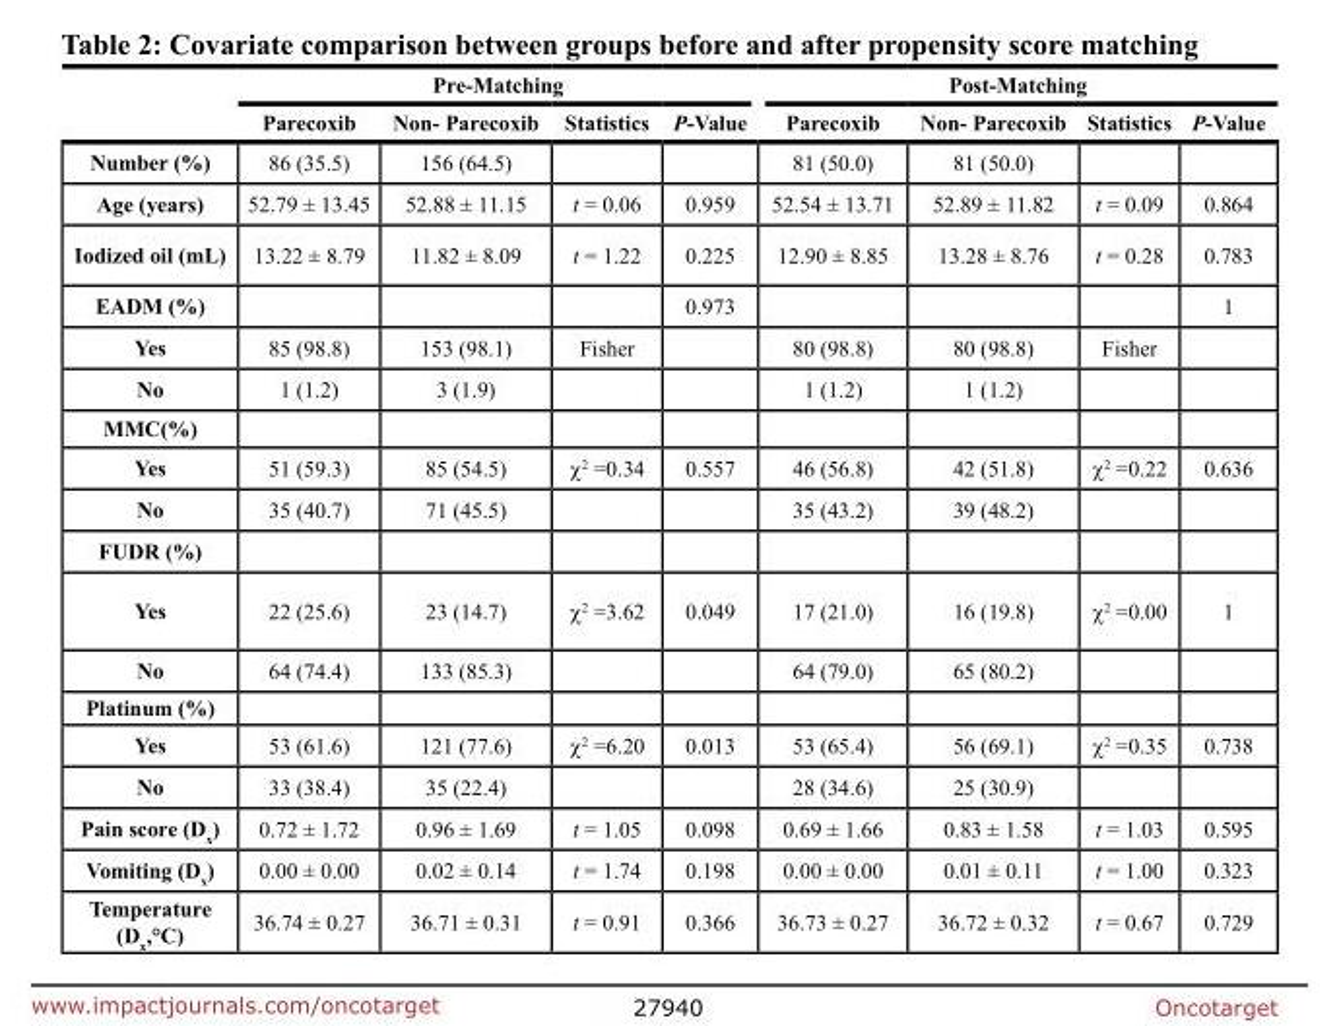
<table><thead><tr><td rowspan="2"></td><td colspan="4">Pre-Matching</td><td colspan="4">Post-Matching</td></tr><tr><td>Parecoxib</td><td>Non- Parecoxib</td><td>Statistics</td><td>P-Value</td><td>Parecoxib</td><td>Non- Parecoxib</td><td>Statistics</td><td>P-Value</td></tr></thead><tbody><tr><td>Number (%)</td><td>86 (35.5)</td><td>156 (64.5)</td><td></td><td></td><td>81 (50.0)</td><td>81 (50.0)</td><td></td><td></td></tr><tr><td>Age (years)</td><td>52.79 ± 13.45</td><td>52.88 ± 11.15</td><td>t = 0.06</td><td>0.959</td><td>52.54 ± 13.71</td><td>52.89 ± 11.82</td><td>t = 0.09</td><td>0.864</td></tr><tr><td>Iodized oil (mL)</td><td>13.22 ± 8.79</td><td>11.82 ± 8.09</td><td>t = 1.22</td><td>0.225</td><td>12.90 ± 8.85</td><td>13.28 ± 8.76</td><td>t = 0.28</td><td>0.783</td></tr><tr><td>EADM (%)</td><td></td><td></td><td></td><td>0.973</td><td></td><td></td><td></td><td>1</td></tr><tr><td>Yes</td><td>85 (98.8)</td><td>153 (98.1)</td><td>Fisher</td><td></td><td>80 (98.8)</td><td>80 (98.8)</td><td>Fisher</td><td></td></tr><tr><td>No</td><td>1 (1.2)</td><td>3 (1.9)</td><td></td><td></td><td>1 (1.2)</td><td>1 (1.2)</td><td></td><td></td></tr><tr><td colspan="9">MMC(%)</td></tr><tr><td>Yes</td><td>51 (59.3)</td><td>85 (54.5)</td><td>χ<sup>2</sup> =0.34</td><td>0.557</td><td>46 (56.8)</td><td>42 (51.8)</td><td>χ<sup>2</sup> =0.22</td><td>0.636</td></tr><tr><td>No</td><td>35 (40.7)</td><td>71 (45.5)</td><td></td><td></td><td>35 (43.2)</td><td>39 (48.2)</td><td></td><td></td></tr><tr><td colspan="9">FUDR (%)</td></tr><tr><td>Yes</td><td>22 (25.6)</td><td>23 (14.7)</td><td>χ<sup>2</sup> =3.62</td><td>0.049</td><td>17 (21.0)</td><td>16 (19.8)</td><td>χ<sup>2</sup> =0.00</td><td>1</td></tr><tr><td>No</td><td>64 (74.4)</td><td>133 (85.3)</td><td></td><td></td><td>64 (79.0)</td><td>65 (80.2)</td><td></td><td></td></tr><tr><td colspan="9">Platinum (%)</td></tr><tr><td>Yes</td><td>53 (61.6)</td><td>121 (77.6)</td><td>χ<sup>2</sup> =6.20</td><td>0.013</td><td>53 (65.4)</td><td>56 (69.1)</td><td>χ<sup>2</sup> =0.35</td><td>0.738</td></tr><tr><td>No</td><td>33 (38.4)</td><td>35 (22.4)</td><td></td><td></td><td>28 (34.6)</td><td>25 (30.9)</td><td></td><td></td></tr><tr><td>Pain score (D<sub>x</sub>)</td><td>0.72 ± 1.72</td><td>0.96 ± 1.69</td><td>t = 1.05</td><td>0.098</td><td>0.69 ± 1.66</td><td>0.83 ± 1.58</td><td>t = 1.03</td><td>0.595</td></tr><tr><td>Vomiting (D<sub>x</sub>)</td><td>0.00 ± 0.00</td><td>0.02 ± 0.14</td><td>t = 1.74</td><td>0.198</td><td>0.00 ± 0.00</td><td>0.01 ± 0.11</td><td>t = 1.00</td><td>0.323</td></tr><tr><td>Temperature (D<sub>x</sub>,°C)</td><td>36.74 ± 0.27</td><td>36.71 ± 0.31</td><td>t = 0.91</td><td>0.366</td><td>36.73 ± 0.27</td><td>36.72 ± 0.32</td><td>t = 0.67</td><td>0.729</td></tr></tbody></table>